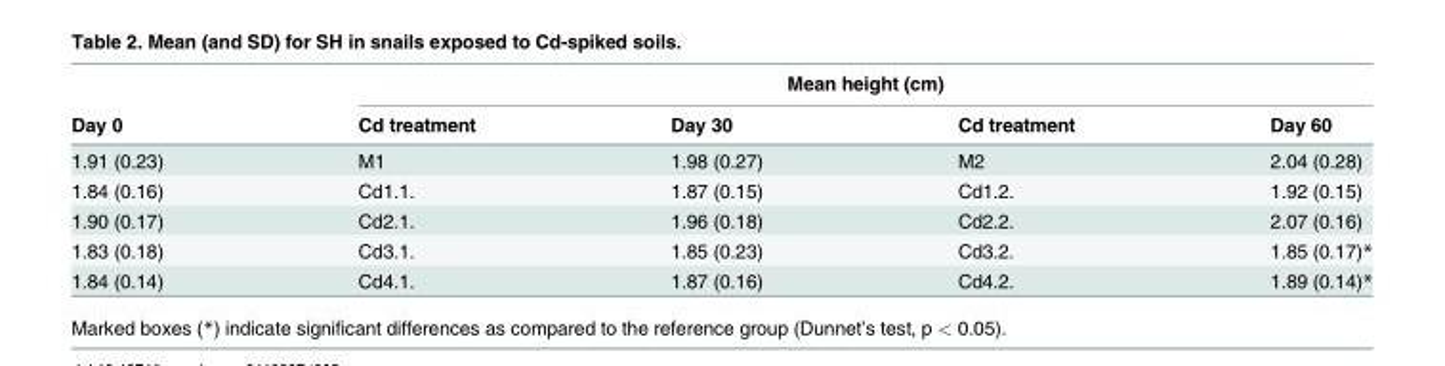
<table><thead><tr><td rowspan="2">Day 0</td><td colspan="4">Mean height (cm)</td></tr><tr><td>Cd treatment</td><td>Day 30</td><td>Cd treatment</td><td>Day 60</td></tr></thead><tbody><tr><td>1.91 (0.23)</td><td>M1</td><td>1.98 (0.27)</td><td>M2</td><td>2.04 (0.28)</td></tr><tr><td>1.84 (0.16)</td><td>Cd1.1.</td><td>1.87 (0.15)</td><td>Cd1.2.</td><td>1.92 (0.15)</td></tr><tr><td>1.90 (0.17)</td><td>Cd2.1.</td><td>1.96 (0.18)</td><td>Cd2.2.</td><td>2.07 (0.16)</td></tr><tr><td>1.83 (0.18)</td><td>Cd3.1.</td><td>1.85 (0.23)</td><td>Cd3.2.</td><td>1.85 (0.17)*</td></tr><tr><td>1.84 (0.14)</td><td>Cd4.1.</td><td>1.87 (0.16)</td><td>Cd4.2.</td><td>1.89 (0.14)*</td></tr></tbody></table>